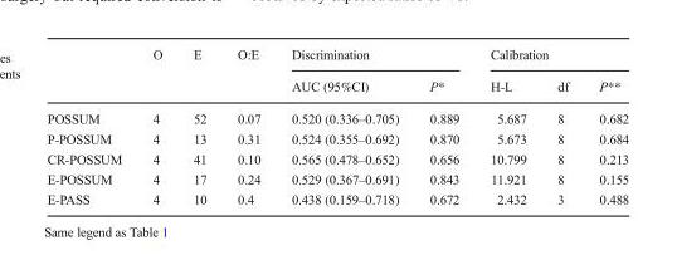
<table><thead><tr><td rowspan="2"></td><td rowspan="2">O</td><td rowspan="2">E</td><td rowspan="2">O:E</td><td colspan="2">Discrimination</td><td colspan="3">Calibration</td></tr><tr><td>AUC (95%CI)</td><td>P*</td><td>H-L</td><td>df</td><td>P**</td></tr></thead><tbody><tr><td>POSSUM</td><td>4</td><td>52</td><td>0.07</td><td>0.520 (0.336–0.705)</td><td>0.889</td><td>5.687</td><td>8</td><td>0.682</td></tr><tr><td>P-POSSUM</td><td>4</td><td>13</td><td>0.31</td><td>0.524 (0.355–0.692)</td><td>0.870</td><td>5.673</td><td>8</td><td>0.684</td></tr><tr><td>CR-POSSUM</td><td>4</td><td>41</td><td>0.10</td><td>0.565 (0.478–0.652)</td><td>0.656</td><td>10.799</td><td>8</td><td>0.213</td></tr><tr><td>E-POSSUM</td><td>4</td><td>17</td><td>0.24</td><td>0.529 (0.367–0.691)</td><td>0.843</td><td>11.921</td><td>8</td><td>0.155</td></tr><tr><td>E-PASS</td><td>4</td><td>10</td><td>0.4</td><td>0.438 (0.159–0.718)</td><td>0.672</td><td>2.432</td><td>3</td><td>0.488</td></tr></tbody></table>